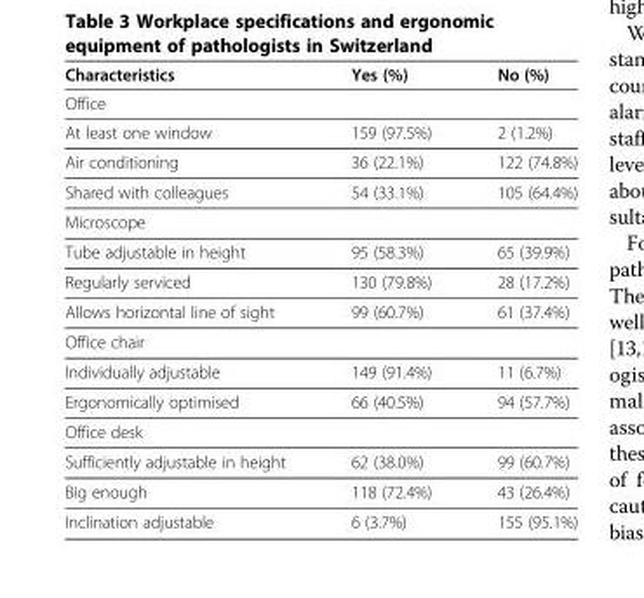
<table><thead><tr><td>Characteristics</td><td>Yes (%)</td><td>No (%)</td></tr></thead><tbody><tr><td colspan="3">Office</td></tr><tr><td>At least one window</td><td>159 (97.5%)</td><td>2 (1.2%)</td></tr><tr><td>Air conditioning</td><td>36 (22.1%)</td><td>122 (74.8%)</td></tr><tr><td>Shared with colleagues</td><td>54 (33.1%)</td><td>105 (64.4%)</td></tr><tr><td colspan="3">Microscope</td></tr><tr><td>Tube adjustable in height</td><td>95 (58.3%)</td><td>65 (39.9%)</td></tr><tr><td>Regularly serviced</td><td>130 (79.8%)</td><td>28 (17.2%)</td></tr><tr><td>Allows horizontal line of sight</td><td>99 (60.7%)</td><td>61 (37.4%)</td></tr><tr><td colspan="3">Office chair</td></tr><tr><td>Individually adjustable</td><td>149 (91.4%)</td><td>11 (6.7%)</td></tr><tr><td>Ergonomically optimised</td><td>66 (40.5%)</td><td>94 (57.7%)</td></tr><tr><td colspan="3">Office desk</td></tr><tr><td>Sufficiently adjustable in height</td><td>62 (38.0%)</td><td>99 (60.7%)</td></tr><tr><td>Big enough</td><td>118 (72.4%)</td><td>43 (26.4%)</td></tr><tr><td>Inclination adjustable</td><td>6 (3.7%)</td><td>155 (95.1%)</td></tr></tbody></table>